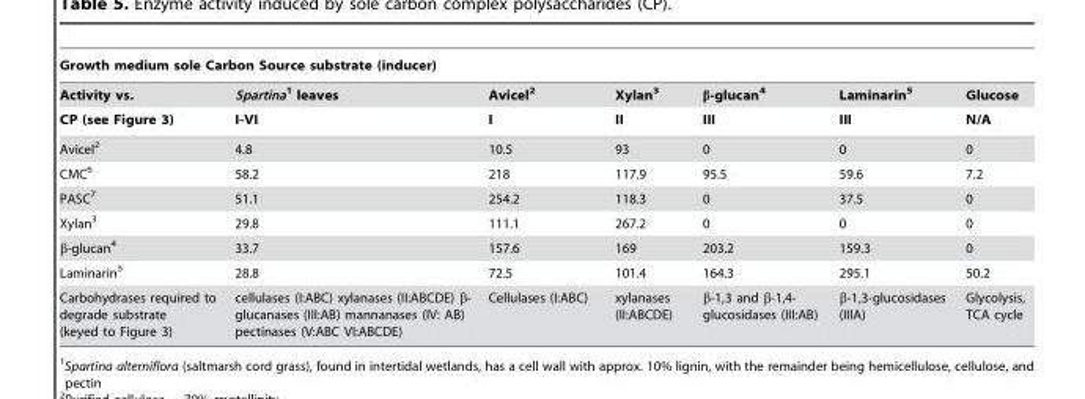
<table><thead><tr><td colspan="7">Growth medium sole Carbon Source substrate (inducer)</td></tr><tr><td rowspan="2">Activity vs. CP (see Figure 3)</td><td rowspan="2">Spartina1 leaves I-VI</td><td rowspan="2">Avicel2 I</td><td rowspan="2">Xylan3 II</td><td rowspan="2">β-glucan4 III</td><td rowspan="2">Laminarin5 III</td><td rowspan="2">Glucose N/A</td></tr><tr></tr></thead><tbody><tr><td>Avicel<sup>2</sup></td><td>4.8</td><td>10.5</td><td>93</td><td>0</td><td>0</td><td>0</td></tr><tr><td>CMC<sup>6</sup></td><td>58.2</td><td>218</td><td>117.9</td><td>95.5</td><td>59.6</td><td>7.2</td></tr><tr><td>PASC<sup>7</sup></td><td>51.1</td><td>254.2</td><td>118.3</td><td>0</td><td>37.5</td><td>0</td></tr><tr><td>Xylan<sup>3</sup></td><td>29.8</td><td>111.1</td><td>267.2</td><td>0</td><td>0</td><td>0</td></tr><tr><td>β-glucan<sup>4</sup></td><td>33.7</td><td>157.6</td><td>169</td><td>203.2</td><td>159.3</td><td>0</td></tr><tr><td>Laminarin<sup>5</sup></td><td>28.8</td><td>72.5</td><td>101.4</td><td>164.3</td><td>295.1</td><td>50.2</td></tr><tr><td>Carbohydrases required to degrade substrate (keyed to Figure 3)</td><td>cellulases (I:ABC) xylanases (II:ABCDE) β- glucanases (III:AB) mannanases (IV: AB) pectinases (V:ABC VI:ABCDE)</td><td>Cellulases (I:ABC)</td><td>xylanases (II:ABCDE)</td><td>β-1,3 and β-1,4- glucosidases (III:AB)</td><td>β-1,3-glucosidases (IIIA)</td><td>Glycolysis, TCA cycle</td></tr></tbody></table>